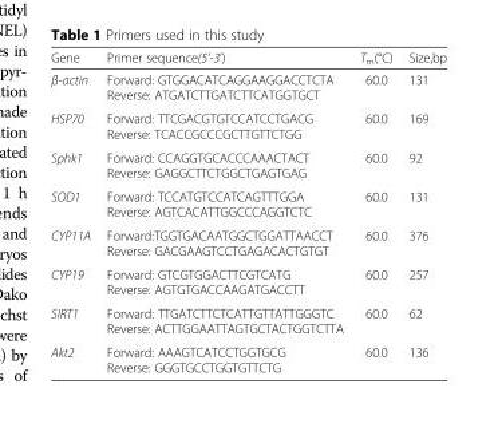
<table><thead><tr><td>Gene</td><td>Primer sequence(5’-3’)</td><td>T<sub>m</sub>(°C)</td><td>Size,bp</td></tr></thead><tbody><tr><td>β-actin</td><td>Forward: GTGGACATCAGGAAGGACCTCTA Reverse: ATGATCTTGATCTTCATGGTGCT</td><td>60.0</td><td>131</td></tr><tr><td>HSP70</td><td>Forward: TTCGACGTGTCCATCCTGACG Reverse: TCACCGCCCGCTTGTTCTGG</td><td>60.0</td><td>169</td></tr><tr><td>Sphk1</td><td>Forward: CCAGGTGCACCCAAACTACT Reverse: GAGGCTTCTGGCTGAGTGAG</td><td>60.0</td><td>92</td></tr><tr><td>SOD1</td><td>Forward: TCCATGTCCATCAGTTTGGA Reverse: AGTCACATTGGCCCAGGTCTC</td><td>60.0</td><td>131</td></tr><tr><td>CYP11A</td><td>Forward:TGGTGACAATGGCTGGATTAACCT Reverse: GACGAAGTCCTGAGACACTGTGT</td><td>60.0</td><td>376</td></tr><tr><td>CYP19</td><td>Forward: GTCGTGGACTTCGTCATG Reverse: AGTGTGACCAAGATGACCTT</td><td>60.0</td><td>257</td></tr><tr><td>SIRT1</td><td>Forward: TTGATCTTCTCATTGTTATTGGGTC Reverse: ACTTGGAATTAGTGCTACTGGTCTTA</td><td>60.0</td><td>62</td></tr><tr><td>Akt2</td><td>Forward: AAAGTCATCCTGGTGCG Reverse: GGGTGCCTGGTGTTCTG</td><td>60.0</td><td>136</td></tr></tbody></table>